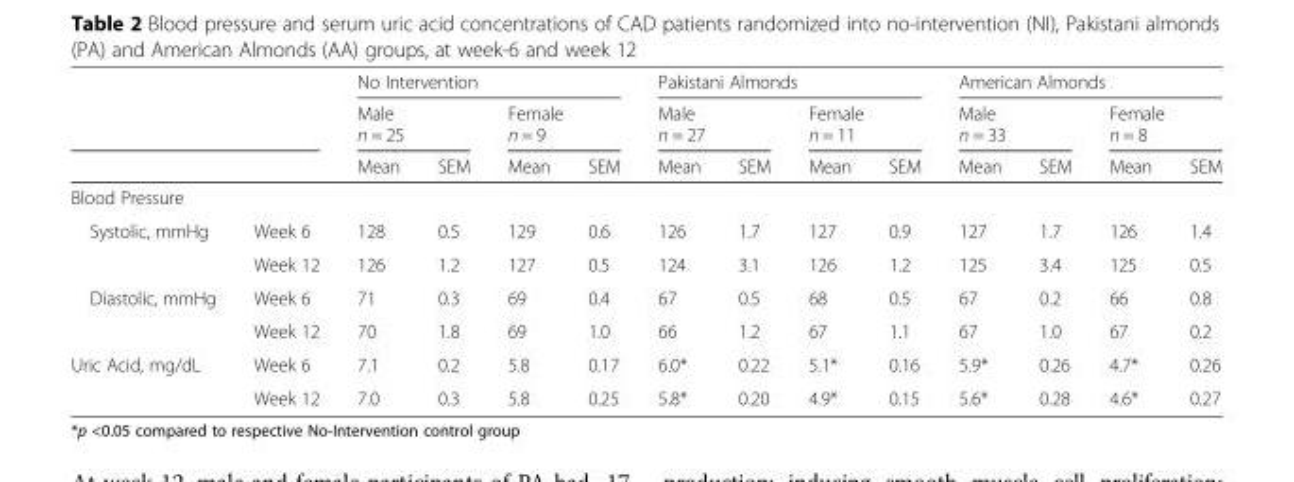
<table><thead><tr><td rowspan="4"></td><td rowspan="4"></td><td colspan="4">No Intervention</td><td colspan="4">Pakistani Almonds</td><td colspan="4">American Almonds</td></tr><tr><td rowspan="2" colspan="2">Male n = 25</td><td rowspan="2" colspan="2">Female n = 9</td><td rowspan="2" colspan="2">Male n = 27</td><td rowspan="2" colspan="2">Female n = 11</td><td rowspan="2" colspan="2">Male n = 33</td><td rowspan="2" colspan="2">Female n = 8</td></tr><tr></tr><tr><td>Mean</td><td>SEM</td><td>Mean</td><td>SEM</td><td>Mean</td><td>SEM</td><td>Mean</td><td>SEM</td><td>Mean</td><td>SEM</td><td>Mean</td><td>SEM</td></tr></thead><tbody><tr><td colspan="14">Blood Pressure</td></tr><tr><td rowspan="2">Systolic, mmHg</td><td>Week 6</td><td>128</td><td>0.5</td><td>129</td><td>0.6</td><td>126</td><td>1.7</td><td>127</td><td>0.9</td><td>127</td><td>1.7</td><td>126</td><td>1.4</td></tr><tr><td>Week 12</td><td>126</td><td>1.2</td><td>127</td><td>0.5</td><td>124</td><td>3.1</td><td>126</td><td>1.2</td><td>125</td><td>3.4</td><td>125</td><td>0.5</td></tr><tr><td rowspan="2">Diastolic, mmHg</td><td>Week 6</td><td>71</td><td>0.3</td><td>69</td><td>0.4</td><td>67</td><td>0.5</td><td>68</td><td>0.5</td><td>67</td><td>0.2</td><td>66</td><td>0.8</td></tr><tr><td>Week 12</td><td>70</td><td>1.8</td><td>69</td><td>1.0</td><td>66</td><td>1.2</td><td>67</td><td>1.1</td><td>67</td><td>1.0</td><td>67</td><td>0.2</td></tr><tr><td rowspan="2">Uric Acid, mg/dL</td><td>Week 6</td><td>7.1</td><td>0.2</td><td>5.8</td><td>0.17</td><td>6.0*</td><td>0.22</td><td>5.1*</td><td>0.16</td><td>5.9*</td><td>0.26</td><td>4.7*</td><td>0.26</td></tr><tr><td>Week 12</td><td>7.0</td><td>0.3</td><td>5.8</td><td>0.25</td><td>5.8*</td><td>0.20</td><td>4.9*</td><td>0.15</td><td>5.6*</td><td>0.28</td><td>4.6*</td><td>0.27</td></tr></tbody></table>